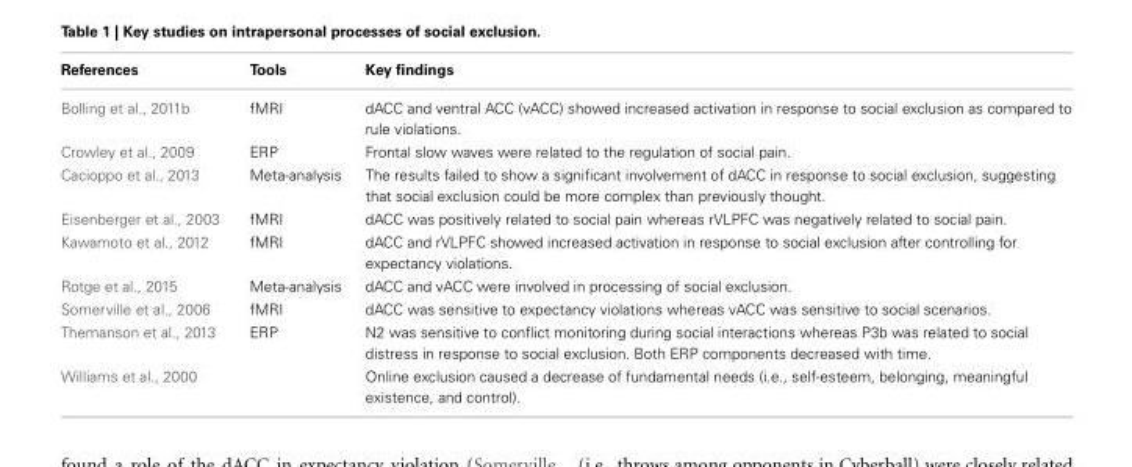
<table><thead><tr><td>References</td><td>Tools</td><td>Key findings</td></tr></thead><tbody><tr><td>Bolling et al., 2011b</td><td>fMRI</td><td>dACC and ventral ACC (vACC) showed increased activation in response to social exclusion as compared to rule violations.</td></tr><tr><td>Crowley et al., 2009</td><td>ERP</td><td>Frontal slow waves were related to the regulation of social pain.</td></tr><tr><td>Cacioppo et al., 2013</td><td>Meta-analysis</td><td>The results failed to show a significant involvement of dACC in response to social exclusion, suggesting that social exclusion could be more complex than previously thought.</td></tr><tr><td>Eisenberger et al., 2003</td><td>fMRI</td><td>dACC was positively related to social pain whereas rVLPFC was negatively related to social pain.</td></tr><tr><td>Kawamoto et al., 2012</td><td>fMRI</td><td>dACC and rVLPFC showed increased activation in response to social exclusion after controlling for expectancy violations.</td></tr><tr><td>Rotge et al., 2015</td><td>Meta-analysis</td><td>dACC and vACC were involved in processing of social exclusion.</td></tr><tr><td>Somerville et al., 2006</td><td>fMRI</td><td>dACC was sensitive to expectancy violations whereas vACC was sensitive to social scenarios.</td></tr><tr><td>Themanson et al., 2013</td><td>ERP</td><td>N2 was sensitive to conflict monitoring during social interactions whereas P3b was related to social distress in response to social exclusion. Both ERP components decreased with time.</td></tr><tr><td>Williams et al., 2000</td><td></td><td>Online exclusion caused a decrease of fundamental needs (i.e., self-esteem, belonging, meaningful existence, and control).</td></tr></tbody></table>